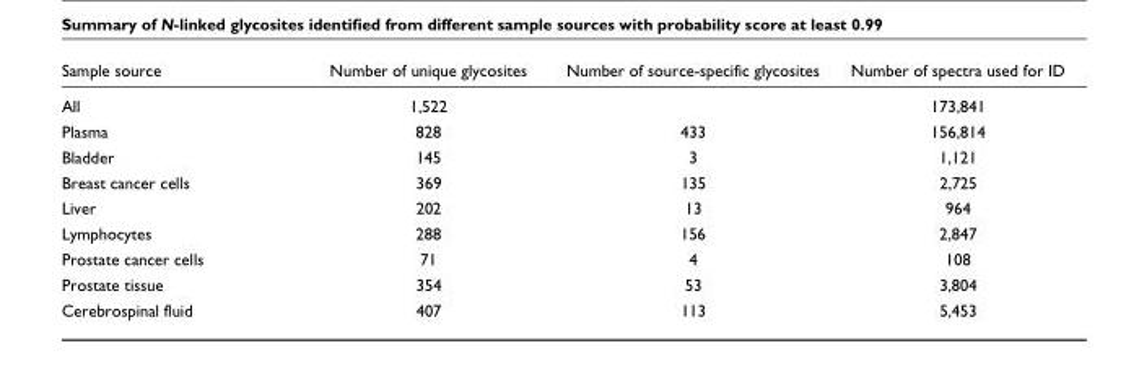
<table><thead><tr><td>Sample source</td><td>Number of unique glycosites</td><td>Number of source-specific glycosites</td><td>Number of spectra used for ID</td></tr></thead><tbody><tr><td>All</td><td>1,522</td><td></td><td>173,841</td></tr><tr><td>Plasma</td><td>828</td><td>433</td><td>156,814</td></tr><tr><td>Bladder</td><td>145</td><td>3</td><td>1,121</td></tr><tr><td>Breast cancer cells</td><td>369</td><td>135</td><td>2,725</td></tr><tr><td>Liver</td><td>202</td><td>13</td><td>964</td></tr><tr><td>Lymphocytes</td><td>288</td><td>156</td><td>2,847</td></tr><tr><td>Prostate cancer cells</td><td>71</td><td>4</td><td>108</td></tr><tr><td>Prostate tissue</td><td>354</td><td>53</td><td>3,804</td></tr><tr><td>Cerebrospinal fluid</td><td>407</td><td>113</td><td>5,453</td></tr></tbody></table>